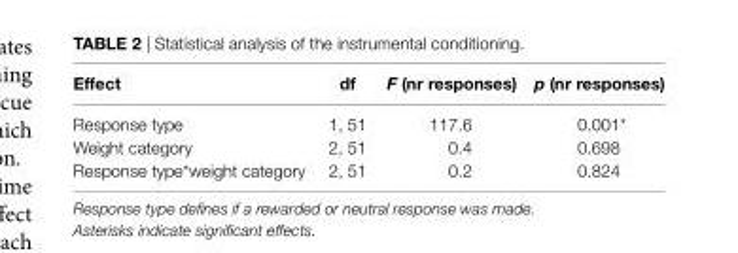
<table><thead><tr><td>effect</td><td>df</td><td>F (nr responses)</td><td>p (nr responses)</td></tr></thead><tbody><tr><td>Response type</td><td>1, 51</td><td>117.6</td><td>0.001*</td></tr><tr><td>Weight category</td><td>2, 51</td><td>0.4</td><td>0.698</td></tr><tr><td>Response type*weight category</td><td>2, 51</td><td>0.2</td><td>0.824</td></tr></tbody></table>